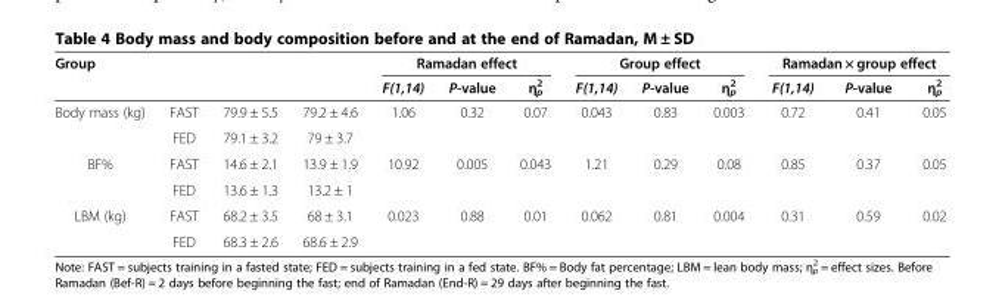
<table><thead><tr><td rowspan="2">Group</td><td rowspan="2"></td><td rowspan="2"></td><td rowspan="2"></td><td colspan="3">Ramadan effect</td><td colspan="3">Group effect</td><td colspan="3">Ramadan × group effect</td></tr><tr><td>F(1,14)</td><td>P-value</td><td>η<sub>p</sub> <sup>2</sup></td><td>F(1,14)</td><td>P-value</td><td>η<sub>p</sub> <sup>2</sup></td><td>F(1,14)</td><td>P-value</td><td>η<sub>p</sub> <sup>2</sup></td></tr></thead><tbody><tr><td rowspan="2">Body mass (kg)</td><td>FAST</td><td>79.9 ± 5.5</td><td>79.2 ± 4.6</td><td rowspan="2">1.06</td><td rowspan="2">0.32</td><td rowspan="2">0.07</td><td rowspan="2">0.043</td><td rowspan="2">0.83</td><td rowspan="2">0.003</td><td rowspan="2">0.72</td><td rowspan="2">0.41</td><td rowspan="2">0.05</td></tr><tr><td>FED</td><td>79.1 ± 3.2</td><td>79 ± 3.7</td></tr><tr><td rowspan="2">BF%</td><td>FAST</td><td>14.6 ± 2.1</td><td>13.9 ± 1.9</td><td rowspan="2">10.92</td><td rowspan="2">0.005</td><td rowspan="2">0.043</td><td rowspan="2">1.21</td><td rowspan="2">0.29</td><td rowspan="2">0.08</td><td rowspan="2">0.85</td><td rowspan="2">0.37</td><td rowspan="2">0.05</td></tr><tr><td>FED</td><td>13.6 ± 1.3</td><td>13.2 ± 1</td></tr><tr><td rowspan="2">LBM (kg)</td><td>FAST</td><td>68.2 ± 3.5</td><td>68 ± 3.1</td><td>0.023</td><td>0.88</td><td>0.01</td><td>0.062</td><td>0.81</td><td>0.004</td><td>0.31</td><td>0.59</td><td>0.02</td></tr><tr><td>FED</td><td>68.3 ± 2.6</td><td>68.6 ± 2.9</td><td></td><td></td><td></td><td></td><td></td><td></td><td></td><td></td><td></td></tr></tbody></table>